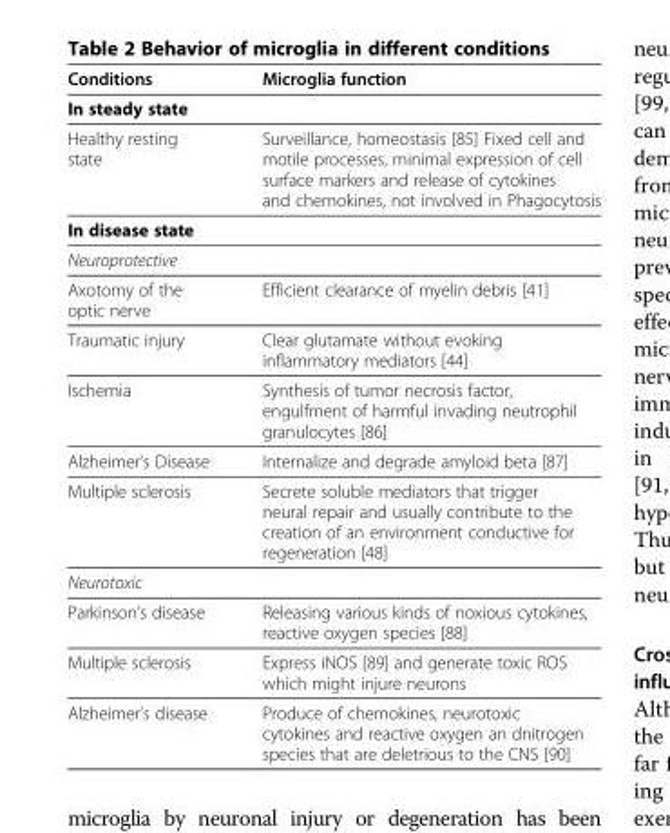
<table><thead><tr><td>Conditions</td><td>Microglia function</td></tr></thead><tbody><tr><td colspan="2">In steady state</td></tr><tr><td>Healthy resting state</td><td>Surveillance, homeostasis [85] Fixed cell and motile processes, minimal expression of cell surface markers and release of cytokines and chemokines, not involved in Phagocytosis</td></tr><tr><td colspan="2">In disease state</td></tr><tr><td colspan="2">Neuroprotective</td></tr><tr><td>Axotomy of the optic nerve</td><td>Efficient clearance of myelin debris [41]</td></tr><tr><td>Traumatic injury</td><td>Clear glutamate without evoking inflammatory mediators [44]</td></tr><tr><td>Ischemia</td><td>Synthesis of tumor necrosis factor, engulfment of harmful invading neutrophil granulocytes [86]</td></tr><tr><td>Alzheimer’s Disease</td><td>Internalize and degrade amyloid beta [87]</td></tr><tr><td>Multiple sclerosis</td><td>Secrete soluble mediators that trigger neural repair and usually contribute to the creation of an environment conductive for regeneration [48]</td></tr><tr><td colspan="2">Neurotoxic</td></tr><tr><td>Parkinson’s disease</td><td>Releasing various kinds of noxious cytokines, reactive oxygen species [88]</td></tr><tr><td>Multiple sclerosis</td><td>Express iNOS [89] and generate toxic ROS which might injure neurons</td></tr><tr><td>Alzheimer’s disease</td><td>Produce of chemokines, neurotoxic cytokines and reactive oxygen an dnitrogen species that are deletrious to the CNS [90]</td></tr></tbody></table>